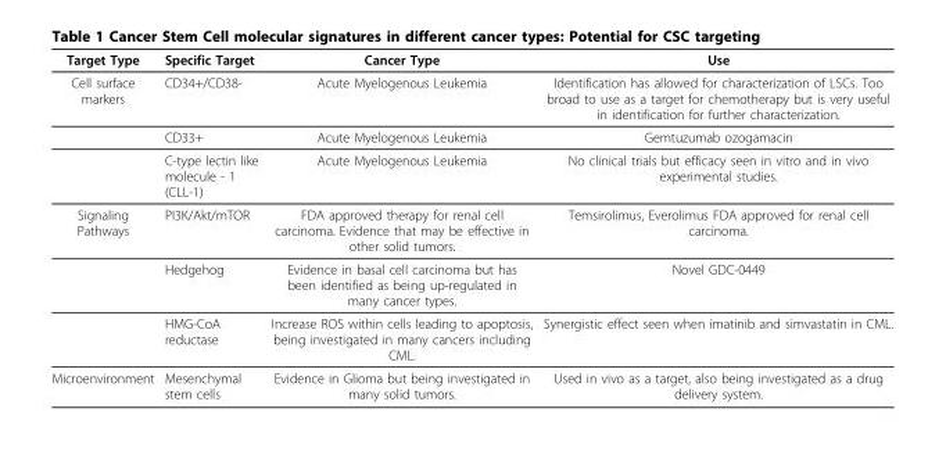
<table><thead><tr><td>Target Type</td><td>Specific Target</td><td>Cancer Type</td><td>Use</td></tr></thead><tbody><tr><td rowspan="3">Cell surface markers</td><td>CD34+/CD38-</td><td>Acute Myelogenous Leukemia</td><td>Identification has allowed for characterization of LSCs. Too broad to use as a target for chemotherapy but is very useful in identification for further characterization.</td></tr><tr><td>CD33+</td><td>Acute Myelogenous Leukemia</td><td>Gemtuzumab ozogamacin</td></tr><tr><td>C-type lectin like molecule - 1 (CLL-1)</td><td>Acute Myelogenous Leukemia</td><td>No clinical trials but efficacy seen in vitro and in vivo experimental studies.</td></tr><tr><td rowspan="3">Signaling Pathways</td><td>PI3K/Akt/mTOR</td><td>FDA approved therapy for renal cell carcinoma. Evidence that may be effective in other solid tumors.</td><td>Temsirolimus, Everolimus FDA approved for renal cell carcinoma.</td></tr><tr><td>Hedgehog</td><td>Evidence in basal cell carcinoma but has been identified as being up-regulated in many cancer types.</td><td>Novel GDC-0449</td></tr><tr><td>HMG-CoA reductase</td><td>Increase ROS within cells leading to apoptosis, being investigated in many cancers including CML.</td><td>Synergistic effect seen when imatinib and simvastatin in CML.</td></tr><tr><td>Microenvironment</td><td>Mesenchymal stem cells</td><td>Evidence in Glioma but being investigated in many solid tumors.</td><td>Used in vivo as a target, also being investigated as a drug delivery system.</td></tr></tbody></table>